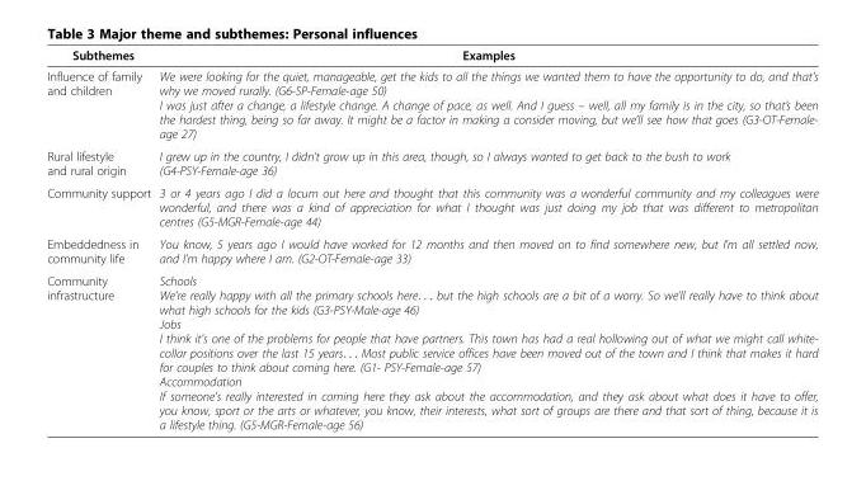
<table><thead><tr><td>Subthemes</td><td>Examples</td></tr></thead><tbody><tr><td>Influence of family and children</td><td>We were looking for the quiet, manageable, get the kids to all the things we wanted them to have the opportunity to do, and that&#x27;s why we moved rurally. (G6-SP-Female-age 50) I was just after a change, a lifestyle change. A change of pace, as well. And I guess – well, all my family is in the city, so that’s been the hardest thing, being so far away. It might be a factor in making a consider moving, but we’ll see how that goes (G3-OT-Female- age 27)</td></tr><tr><td>Rural lifestyle and rural origin</td><td>I grew up in the country, I didn’t grow up in this area, though, so I always wanted to get back to the bush to work (G4-PSY-Female-age 36)</td></tr><tr><td>Community support</td><td>3 or 4 years ago I did a locum out here and thought that this community was a wonderful community and my colleagues were wonderful, and there was a kind of appreciation for what I thought was just doing my job that was different to metropolitan centres (G5-MGR-Female-age 44)</td></tr><tr><td>Embeddedness in community life</td><td>You know, 5 years ago I would have worked for 12 months and then moved on to find somewhere new, but I’m all settled now, and I’m happy where I am. (G2-OT-Female-age 33)</td></tr><tr><td>Community infrastructure</td><td>Schools We’re really happy with all the primary schools here. . . but the high schools are a bit of a worry. So we’ll really have to think about what high schools for the kids (G3-PSY-Male-age 46) Jobs I think it&#x27;s one of the problems for people that have partners. This town has had a real hollowing out of what we might call white- collar positions over the last 15 years. . . Most public service offices have been moved out of the town and I think that makes it hard for couples to think about coming here. (G1- PSY-Female-age 57) Accommodation If someone&#x27;s really interested in coming here they ask about the accommodation, and they ask about what does it have to offer, you know, sport or the arts or whatever, you know, their interests, what sort of groups are there and that sort of thing, because it is a lifestyle thing. (G5-MGR-Female-age 56)</td></tr></tbody></table>